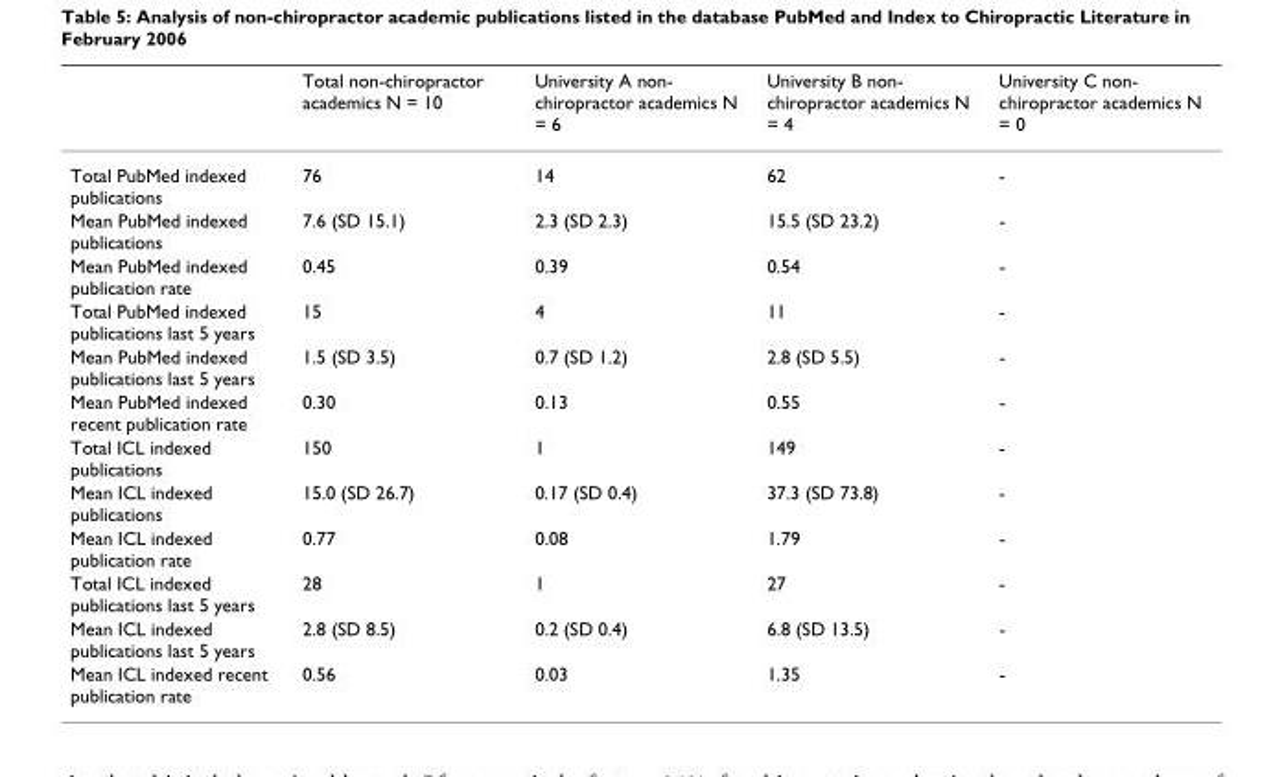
<table><thead><tr><td></td><td>Total non-chiropractor academics N = 10</td><td>University A non- chiropractor academics N = 6</td><td>University B non- chiropractor academics N = 4</td><td>University C non- chiropractor academics N = 0</td></tr></thead><tbody><tr><td>Total PubMed indexed publications</td><td>76</td><td>14</td><td>62</td><td>-</td></tr><tr><td>Mean PubMed indexed publications</td><td>7.6 (SD 15.1)</td><td>2.3 (SD 2.3)</td><td>15.5 (SD 23.2)</td><td>-</td></tr><tr><td>Mean PubMed indexed publication rate</td><td>0.45</td><td>0.39</td><td>0.54</td><td>-</td></tr><tr><td>Total PubMed indexed publications last 5 years</td><td>15</td><td>4</td><td>11</td><td>-</td></tr><tr><td>Mean PubMed indexed publications last 5 years</td><td>1.5 (SD 3.5)</td><td>0.7 (SD 1.2)</td><td>2.8 (SD 5.5)</td><td>-</td></tr><tr><td>Mean PubMed indexed recent publication rate</td><td>0.30</td><td>0.13</td><td>0.55</td><td>-</td></tr><tr><td>Total ICL indexed publications</td><td>150</td><td>1</td><td>149</td><td>-</td></tr><tr><td>Mean ICL indexed publications</td><td>15.0 (SD 26.7)</td><td>0.17 (SD 0.4)</td><td>37.3 (SD 73.8)</td><td>-</td></tr><tr><td>Mean ICL indexed publication rate</td><td>0.77</td><td>0.08</td><td>1.79</td><td>-</td></tr><tr><td>Total ICL indexed publications last 5 years</td><td>28</td><td>1</td><td>27</td><td>-</td></tr><tr><td>Mean ICL indexed publications last 5 years</td><td>2.8 (SD 8.5)</td><td>0.2 (SD 0.4)</td><td>6.8 (SD 13.5)</td><td>-</td></tr><tr><td>Mean ICL indexed recent publication rate</td><td>0.56</td><td>0.03</td><td>1.35</td><td>-</td></tr></tbody></table>